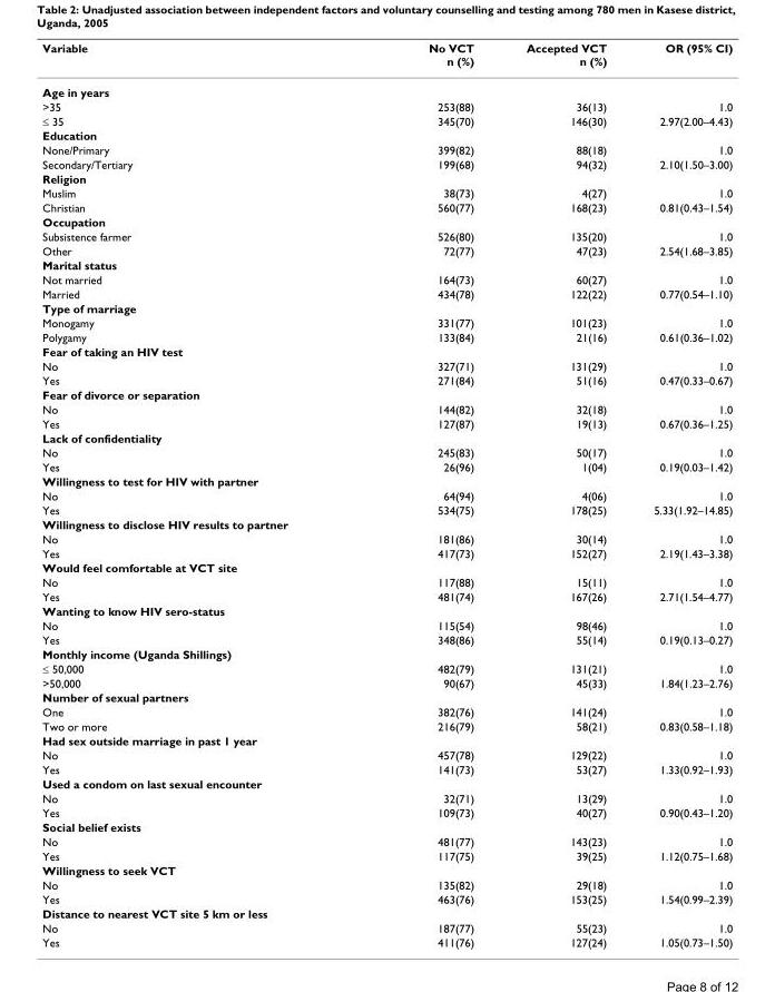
<table><thead><tr><td>Variable</td><td>No VCT n (%)</td><td>Accepted VCT n (%)</td><td>OR (95% CI)</td></tr></thead><tbody><tr><td colspan="4">Age in years</td></tr><tr><td>&gt;35</td><td>253(88)</td><td>36(13)</td><td>1.0</td></tr><tr><td>≤ 35</td><td>345(70)</td><td>146(30)</td><td>2.97(2.00–4.43)</td></tr><tr><td colspan="4">Education</td></tr><tr><td>None/Primary</td><td>399(82)</td><td>88(18)</td><td>1.0</td></tr><tr><td>Secondary/Tertiary</td><td>199(68)</td><td>94(32)</td><td>2.10(1.50–3.00)</td></tr><tr><td colspan="4">Religion</td></tr><tr><td>Muslim</td><td>38(73)</td><td>4(27)</td><td>1.0</td></tr><tr><td>Christian</td><td>560(77)</td><td>168(23)</td><td>0.81(0.43–1.54)</td></tr><tr><td colspan="4">Occupation</td></tr><tr><td>Subsistence farmer</td><td>526(80)</td><td>135(20)</td><td>1.0</td></tr><tr><td>Other</td><td>72(77)</td><td>47(23)</td><td>2.54(1.68–3.85)</td></tr><tr><td colspan="4">Marital status</td></tr><tr><td>Not married</td><td>164(73)</td><td>60(27)</td><td>1.0</td></tr><tr><td>Married</td><td>434(78)</td><td>122(22)</td><td>0.77(0.54–1.10)</td></tr><tr><td colspan="4">Type of marriage</td></tr><tr><td>Monogamy</td><td>331(77)</td><td>101(23)</td><td>1.0</td></tr><tr><td>Polygamy</td><td>133(84)</td><td>21(16)</td><td>0.61(0.36–1.02)</td></tr><tr><td colspan="4">Fear of taking an HIV test</td></tr><tr><td>No</td><td>327(71)</td><td>131(29)</td><td>1.0</td></tr><tr><td>Yes</td><td>271(84)</td><td>51(16)</td><td>0.47(0.33–0.67)</td></tr><tr><td colspan="4">Fear of divorce or separation</td></tr><tr><td>No</td><td>144(82)</td><td>32(18)</td><td>1.0</td></tr><tr><td>Yes</td><td>127(87)</td><td>19(13)</td><td>0.67(0.36–1.25)</td></tr><tr><td colspan="4">Lack of confidentiality</td></tr><tr><td>No</td><td>245(83)</td><td>50(17)</td><td>1.0</td></tr><tr><td>Yes</td><td>26(96)</td><td>1(04)</td><td>0.19(0.03–1.42)</td></tr><tr><td colspan="4">Willingness to test for HIV with partner</td></tr><tr><td>No</td><td>64(94)</td><td>4(06)</td><td>1.0</td></tr><tr><td>Yes</td><td>534(75)</td><td>178(25)</td><td>5.33(1.92–14.85)</td></tr><tr><td colspan="4">Willingness to disclose HIV results to partner</td></tr><tr><td>No</td><td>181(86)</td><td>30(14)</td><td>1.0</td></tr><tr><td>Yes</td><td>417(73)</td><td>152(27)</td><td>2.19(1.43–3.38)</td></tr><tr><td colspan="4">Would feel comfortable at VCT site</td></tr><tr><td>No</td><td>117(88)</td><td>15(11)</td><td>1.0</td></tr><tr><td>Yes</td><td>481(74)</td><td>167(26)</td><td>2.71(1.54–4.77)</td></tr><tr><td colspan="4">Wanting to know HIV sero-status</td></tr><tr><td>No</td><td>115(54)</td><td>98(46)</td><td>1.0</td></tr><tr><td>Yes</td><td>348(86)</td><td>55(14)</td><td>0.19(0.13–0.27)</td></tr><tr><td colspan="4">Monthly income (Uganda Shillings)</td></tr><tr><td>≤ 50,000</td><td>482(79)</td><td>131(21)</td><td>1.0</td></tr><tr><td>&gt;50,000</td><td>90(67)</td><td>45(33)</td><td>1.84(1.23–2.76)</td></tr><tr><td colspan="4">Number of sexual partners</td></tr><tr><td>One</td><td>382(76)</td><td>141(24)</td><td>1.0</td></tr><tr><td>Two or more</td><td>216(79)</td><td>58(21)</td><td>0.83(0.58–1.18)</td></tr><tr><td colspan="4">Had sex outside marriage in past 1 year</td></tr><tr><td>No</td><td>457(78)</td><td>129(22)</td><td>1.0</td></tr><tr><td>Yes</td><td>141(73)</td><td>53(27)</td><td>1.33(0.92–1.93)</td></tr><tr><td colspan="4">Used a condom on last sexual encounter</td></tr><tr><td>No</td><td>32(71)</td><td>13(29)</td><td>1.0</td></tr><tr><td>Yes</td><td>109(73)</td><td>40(27)</td><td>0.90(0.43–1.20)</td></tr><tr><td colspan="4">Social belief exists</td></tr><tr><td>No</td><td>481(77)</td><td>143(23)</td><td>1.0</td></tr><tr><td>Yes</td><td>117(75)</td><td>39(25)</td><td>1.12(0.75–1.68)</td></tr><tr><td colspan="4">Willingness to seek VCT</td></tr><tr><td>No</td><td>135(82)</td><td>29(18)</td><td>1.0</td></tr><tr><td>Yes</td><td>463(76)</td><td>153(25)</td><td>1.54(0.99–2.39)</td></tr><tr><td colspan="4">Distance to nearest VCT site 5 km or less</td></tr><tr><td>No</td><td>187(77)</td><td>55(23)</td><td>1.0</td></tr><tr><td>Yes</td><td>411(76)</td><td>127(24)</td><td>1.05(0.73–1.50)</td></tr></tbody></table>